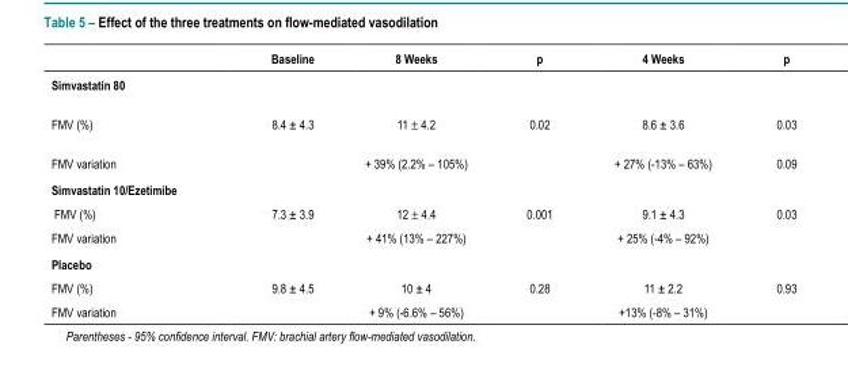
<table><thead><tr><td></td><td>Baseline</td><td>8 Weeks</td><td>p</td><td>4 Weeks</td><td>p</td></tr></thead><tbody><tr><td colspan="6">Simvastatin 80</td></tr><tr><td>FMV (%)</td><td>8.4 ± 4.3</td><td>11 ± 4.2</td><td>0.02</td><td>8.6 ± 3.6</td><td>0.03</td></tr><tr><td>FMV variation</td><td></td><td>+ 39% (2.2% – 105%)</td><td></td><td>+ 27% (-13% – 63%)</td><td>0.09</td></tr><tr><td colspan="6">Simvastatin 10/Ezetimibe</td></tr><tr><td>FMV (%)</td><td>7.3 ± 3.9</td><td>12 ± 4.4</td><td>0.001</td><td>9.1 ± 4.3</td><td>0.03</td></tr><tr><td>FMV variation</td><td></td><td>+ 41% (13% – 227%)</td><td></td><td>+ 25% (-4% – 92%)</td><td></td></tr><tr><td colspan="6">Placebo</td></tr><tr><td>FMV (%)</td><td>9.8 ± 4.5</td><td>10 ± 4</td><td>0.28</td><td>11 ± 2.2</td><td>0.93</td></tr><tr><td>FMV variation</td><td></td><td>+ 9% (-6.6% – 56%)</td><td></td><td>+13% (-8% – 31%)</td><td></td></tr></tbody></table>